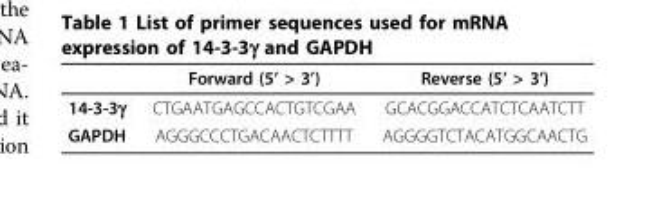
<table><thead><tr><td></td><td>Forward (5’ &gt; 3’)</td><td>Reverse (5’ &gt; 3’)</td></tr></thead><tbody><tr><td>14-3-3γ</td><td>CTGAATGAGCCACTGTCGAA</td><td>GCACGGACCATCTCAATCTT</td></tr><tr><td>GAPDH</td><td>AGGGCCCTGACAACTCTTTT</td><td>AGGGGTCTACATGGCAACTG</td></tr></tbody></table>